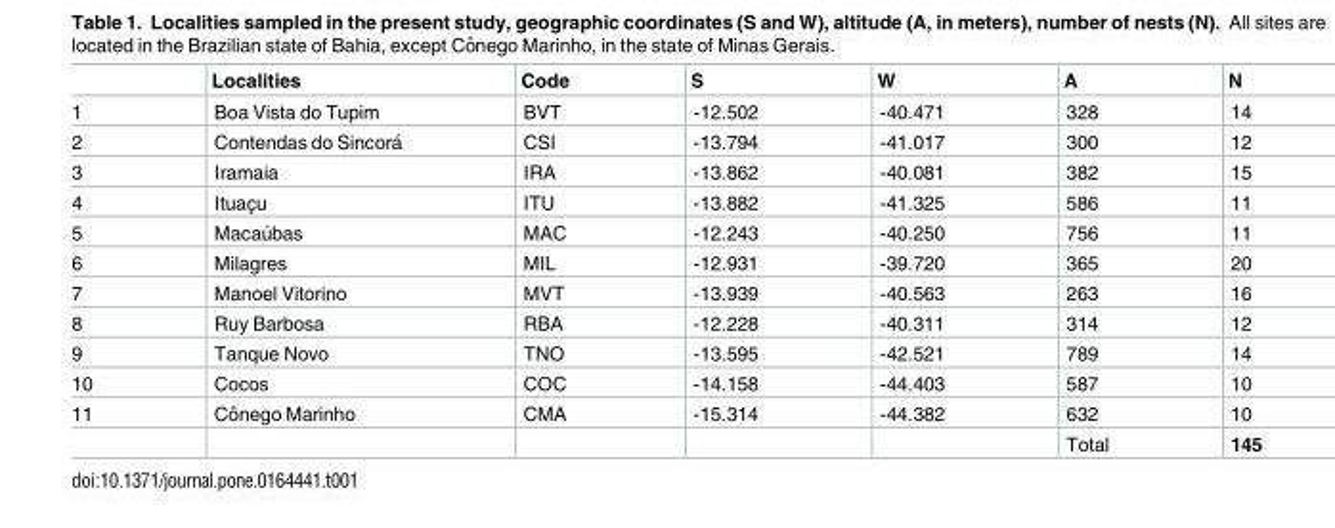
<table><thead><tr><td></td><td>Localities</td><td>Code</td><td>S</td><td>W</td><td>A</td><td>N</td></tr></thead><tbody><tr><td>1</td><td>Boa Vista do Tupim</td><td>BVT</td><td>-12.502</td><td>-40.471</td><td>328</td><td>14</td></tr><tr><td>2</td><td>Contendas do Sincora´</td><td>CSI</td><td>-13.794</td><td>-41.017</td><td>300</td><td>12</td></tr><tr><td>3</td><td>Iramaia</td><td>IRA</td><td>-13.862</td><td>-40.081</td><td>382</td><td>15</td></tr><tr><td>4</td><td>Ituac¸u</td><td>ITU</td><td>-13.882</td><td>-41.325</td><td>586</td><td>11</td></tr><tr><td>5</td><td>Macau´bas</td><td>MAC</td><td>-12.243</td><td>-40.250</td><td>756</td><td>11</td></tr><tr><td>6</td><td>Milagres</td><td>MIL</td><td>-12.931</td><td>-39.720</td><td>365</td><td>20</td></tr><tr><td>7</td><td>Manoel Vitorino</td><td>MVT</td><td>-13.939</td><td>-40.563</td><td>263</td><td>16</td></tr><tr><td>8</td><td>Ruy Barbosa</td><td>RBA</td><td>-12.228</td><td>-40.311</td><td>314</td><td>12</td></tr><tr><td>9</td><td>Tanque Novo</td><td>TNO</td><td>-13.595</td><td>-42.521</td><td>789</td><td>14</td></tr><tr><td>10</td><td>Cocos</td><td>COC</td><td>-14.158</td><td>-44.403</td><td>587</td><td>10</td></tr><tr><td rowspan="2">11</td><td>Coˆnego Marinho</td><td>CMA</td><td>-15.314</td><td>-44.382</td><td>632</td><td>10</td></tr><tr><td></td><td></td><td></td><td></td><td>Total</td><td>145</td></tr></tbody></table>